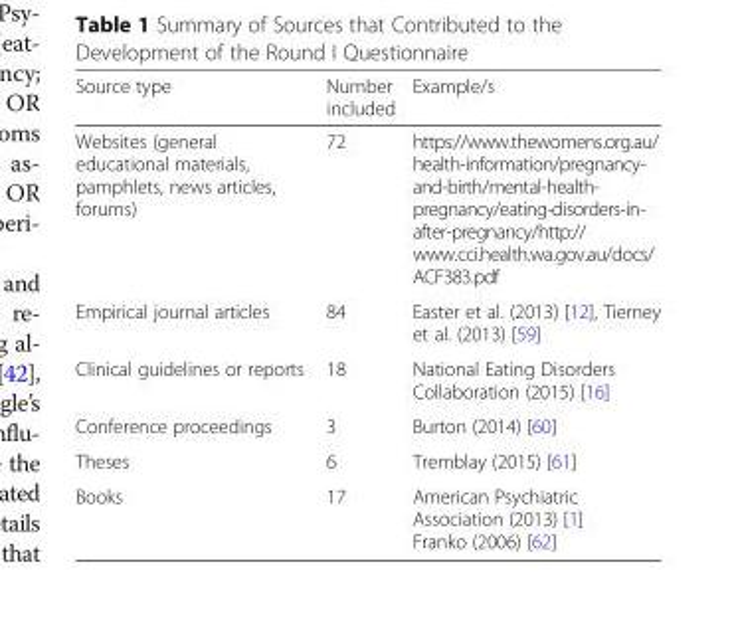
<table><thead><tr><td>Source type</td><td>Number included</td><td>Example/s</td></tr></thead><tbody><tr><td>Websites (general educational materials, pamphlets, news articles, forums)</td><td>72</td><td>https://www.thewomens.org.au/ health-information/pregnancy- and-birth/mental-health- pregnancy/eating-disorders-in- after-pregnancy/http:// www.cci.health.wa.gov.au/docs/ ACF383.pdf</td></tr><tr><td>Empirical journal articles</td><td>84</td><td>Easter et al. (2013) [12], Tierney et al. (2013) [59]</td></tr><tr><td>Clinical guidelines or reports</td><td>18</td><td>National Eating Disorders Collaboration (2015) [16]</td></tr><tr><td>Conference proceedings</td><td>3</td><td>Burton (2014) [60]</td></tr><tr><td>Theses</td><td>6</td><td>Tremblay (2015) [61]</td></tr><tr><td>Books</td><td>17</td><td>American Psychiatric Association (2013) [1] Franko (2006) [62]</td></tr></tbody></table>